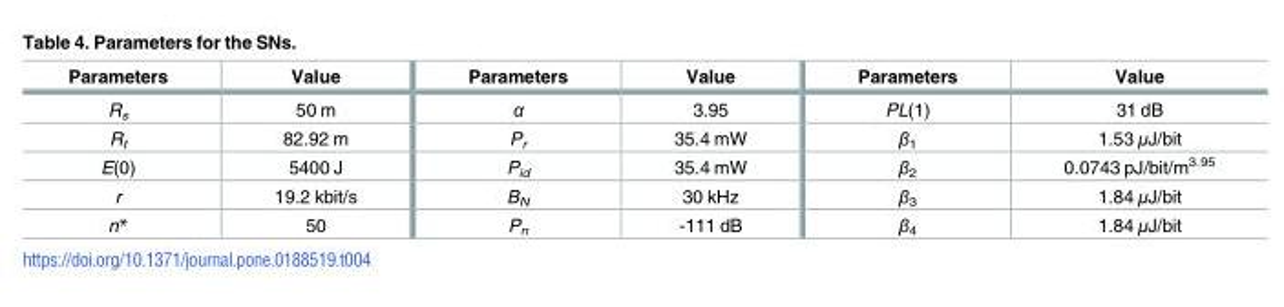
<table><thead><tr><td>Parameters</td><td>Value</td><td>Parameters</td><td>Value</td><td>Parameters</td><td>Value</td></tr></thead><tbody><tr><td>R<sub>s</sub></td><td>50 m</td><td>α</td><td>3.95</td><td>PL(1)</td><td>31 dB</td></tr><tr><td>R<sub>t</sub></td><td>82.92 m</td><td>P<sub>r</sub></td><td>35.4 mW</td><td>β<sub>1</sub></td><td>1.53 μJ/bit</td></tr><tr><td>E(0)</td><td>5400 J</td><td>P<sub>id</sub></td><td>35.4 mW</td><td>β<sub>2</sub></td><td>0.0743 pJ/bit/m<sup>3.95</sup></td></tr><tr><td>r</td><td>19.2 kbit/s</td><td>B<sub>N</sub></td><td>30 kHz</td><td>β<sub>3</sub></td><td>1.84 μJ/bit</td></tr><tr><td>n*</td><td>50</td><td>P<sub>n</sub></td><td>-111 dB</td><td>β<sub>4</sub></td><td>1.84 μJ/bit</td></tr></tbody></table>